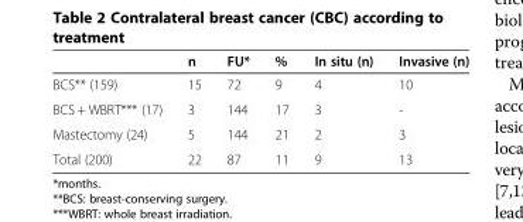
<table><thead><tr><td></td><td>n</td><td>FU*</td><td>%</td><td>In situ (n)</td><td>Invasive (n)</td></tr></thead><tbody><tr><td>BCS** (159)</td><td>15</td><td>72</td><td>9</td><td>4</td><td>10</td></tr><tr><td>BCS + WBRT*** (17)</td><td>3</td><td>144</td><td>17</td><td>3</td><td>-</td></tr><tr><td>Mastectomy (24)</td><td>5</td><td>144</td><td>21</td><td>2</td><td>3</td></tr><tr><td>Total (200)</td><td>22</td><td>87</td><td>11</td><td>9</td><td>13</td></tr></tbody></table>